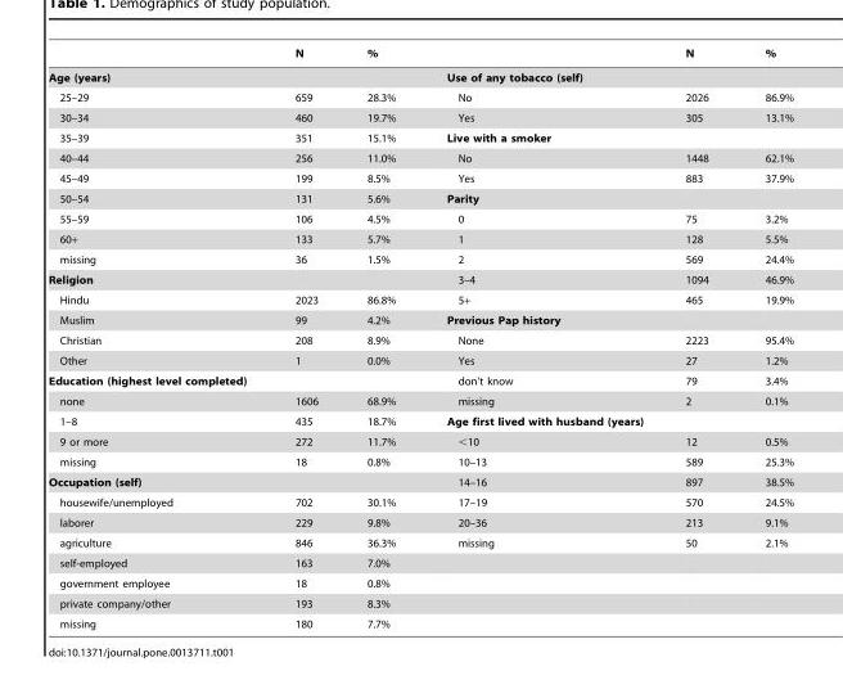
<table><thead><tr><td></td><td>N</td><td>%</td><td></td><td>N</td><td>%</td></tr></thead><tbody><tr><td>Age (years)</td><td></td><td></td><td>Use of any tobacco (self)</td><td></td><td></td></tr><tr><td>25–29</td><td>659</td><td>28.3%</td><td>No</td><td>2026</td><td>86.9%</td></tr><tr><td>30–34</td><td>460</td><td>19.7%</td><td>Yes</td><td>305</td><td>13.1%</td></tr><tr><td>35–39</td><td>351</td><td>15.1%</td><td>Live with a smoker</td><td></td><td></td></tr><tr><td>40–44</td><td>256</td><td>11.0%</td><td>No</td><td>1448</td><td>62.1%</td></tr><tr><td>45–49</td><td>199</td><td>8.5%</td><td>Yes</td><td>883</td><td>37.9%</td></tr><tr><td>50–54</td><td>131</td><td>5.6%</td><td>Parity</td><td></td><td></td></tr><tr><td>55–59</td><td>106</td><td>4.5%</td><td>0</td><td>75</td><td>3.2%</td></tr><tr><td>60+</td><td>133</td><td>5.7%</td><td>1</td><td>128</td><td>5.5%</td></tr><tr><td>missing</td><td>36</td><td>1.5%</td><td>2</td><td>569</td><td>24.4%</td></tr><tr><td>Religion</td><td></td><td></td><td>3–4</td><td>1094</td><td>46.9%</td></tr><tr><td>Hindu</td><td>2023</td><td>86.8%</td><td>5+</td><td>465</td><td>19.9%</td></tr><tr><td>Muslim</td><td>99</td><td>4.2%</td><td>Previous Pap history</td><td></td><td></td></tr><tr><td>Christian</td><td>208</td><td>8.9%</td><td>None</td><td>2223</td><td>95.4%</td></tr><tr><td>Other</td><td>1</td><td>0.0%</td><td>Yes</td><td>27</td><td>1.2%</td></tr><tr><td>Education (highest level completed)</td><td></td><td></td><td>don’t know</td><td>79</td><td>3.4%</td></tr><tr><td>none</td><td>1606</td><td>68.9%</td><td>missing</td><td>2</td><td>0.1%</td></tr><tr><td>1–8</td><td>435</td><td>18.7%</td><td>Age first lived with husband (years)</td><td></td><td></td></tr><tr><td>9 or more</td><td>272</td><td>11.7%</td><td>&lt;10</td><td>12</td><td>0.5%</td></tr><tr><td>missing</td><td>18</td><td>0.8%</td><td>10–13</td><td>589</td><td>25.3%</td></tr><tr><td>Occupation (self)</td><td></td><td></td><td>14–16</td><td>897</td><td>38.5%</td></tr><tr><td>housewife/unemployed</td><td>702</td><td>30.1%</td><td>17–19</td><td>570</td><td>24.5%</td></tr><tr><td>laborer</td><td>229</td><td>9.8%</td><td>20–36</td><td>213</td><td>9.1%</td></tr><tr><td>agriculture</td><td>846</td><td>36.3%</td><td>missing</td><td>50</td><td>2.1%</td></tr><tr><td>self-employed</td><td>163</td><td>7.0%</td><td></td><td></td><td></td></tr><tr><td>government employee</td><td>18</td><td>0.8%</td><td></td><td></td><td></td></tr><tr><td>private company/other</td><td>193</td><td>8.3%</td><td></td><td></td><td></td></tr><tr><td>missing</td><td>180</td><td>7.7%</td><td></td><td></td><td></td></tr></tbody></table>